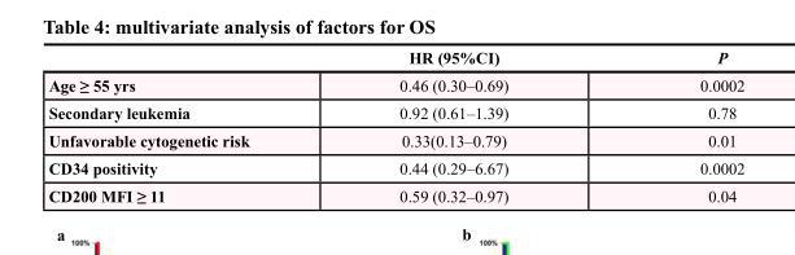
<table><thead><tr><td></td><td>HR (95%CI)</td><td>P</td></tr></thead><tbody><tr><td>Age ≥ 55 yrs</td><td>0.46 (0.30–0.69)</td><td>0.0002</td></tr><tr><td>Secondary leukemia</td><td>0.92 (0.61–1.39)</td><td>0.78</td></tr><tr><td>Unfavorable cytogenetic risk</td><td>0.33(0.13–0.79)</td><td>0.01</td></tr><tr><td>CD34 positivity</td><td>0.44 (0.29–6.67)</td><td>0.0002</td></tr><tr><td>CD200 MFI ≥ 11</td><td>0.59 (0.32–0.97)</td><td>0.04</td></tr></tbody></table>